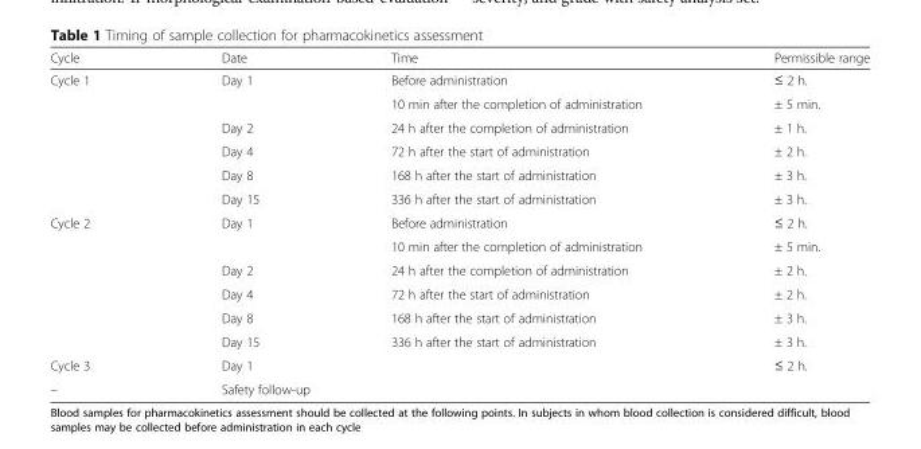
<table><thead><tr><td>Cycle</td><td>Date</td><td>Time</td><td>Permissible range</td></tr></thead><tbody><tr><td rowspan="6">Cycle 1</td><td rowspan="2">Day 1</td><td>Before administration</td><td>≤ 2 h.</td></tr><tr><td>10 min after the completion of administration</td><td>± 5 min.</td></tr><tr><td>Day 2</td><td>24 h after the completion of administration</td><td>± 1 h.</td></tr><tr><td>Day 4</td><td>72 h after the start of administration</td><td>± 2 h.</td></tr><tr><td>Day 8</td><td>168 h after the start of administration</td><td>± 3 h.</td></tr><tr><td>Day 15</td><td>336 h after the start of administration</td><td>± 3 h.</td></tr><tr><td rowspan="6">Cycle 2</td><td rowspan="2">Day 1</td><td>Before administration</td><td>≤ 2 h.</td></tr><tr><td>10 min after the completion of administration</td><td>± 5 min.</td></tr><tr><td>Day 2</td><td>24 h after the completion of administration</td><td>± 2 h.</td></tr><tr><td>Day 4</td><td>72 h after the start of administration</td><td>± 2 h.</td></tr><tr><td>Day 8</td><td>168 h after the start of administration</td><td>± 3 h.</td></tr><tr><td>Day 15</td><td>336 h after the start of administration</td><td>± 3 h.</td></tr><tr><td>Cycle 3</td><td>Day 1</td><td></td><td>≤ 2 h.</td></tr><tr><td>–</td><td colspan="3">Safety follow-up</td></tr></tbody></table>